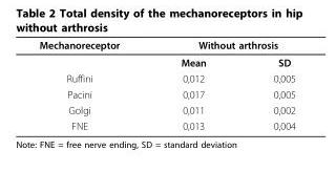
<table><thead><tr><td rowspan="2">Mechanoreceptor</td><td colspan="2">Without arthrosis</td></tr><tr><td>Mean</td><td>SD</td></tr></thead><tbody><tr><td>Ruffini</td><td>0,012</td><td>0,005</td></tr><tr><td>Pacini</td><td>0,017</td><td>0,005</td></tr><tr><td>Golgi</td><td>0,011</td><td>0,002</td></tr><tr><td>FNE</td><td>0,013</td><td>0,004</td></tr></tbody></table>